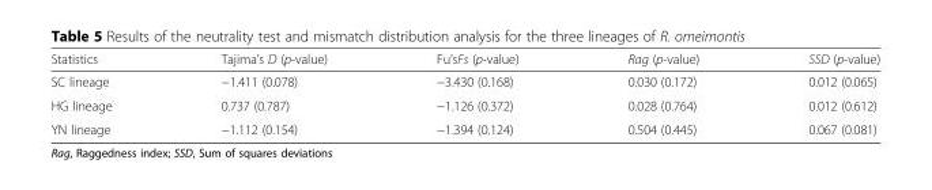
<table><thead><tr><td>Statistics</td><td>Tajima’s D (p-value)</td><td>Fu’sFs (p-value)</td><td>Rag (p-value)</td><td>SSD (p-value)</td></tr></thead><tbody><tr><td>SC lineage</td><td>−1.411 (0.078)</td><td>−3.430 (0.168)</td><td>0.030 (0.172)</td><td>0.012 (0.065)</td></tr><tr><td>HG lineage</td><td>0.737 (0.787)</td><td>−1.126 (0.372)</td><td>0.028 (0.764)</td><td>0.012 (0.612)</td></tr><tr><td>YN lineage</td><td>−1.112 (0.154)</td><td>−1.394 (0.124)</td><td>0.504 (0.445)</td><td>0.067 (0.081)</td></tr></tbody></table>